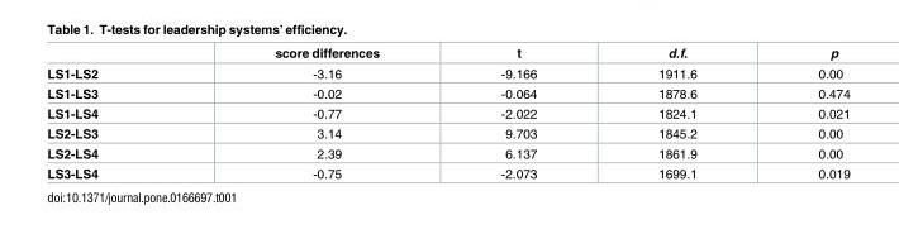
<table><thead><tr><td></td><td>score differences</td><td>t</td><td>d.f.</td><td>p</td></tr></thead><tbody><tr><td>LS1-LS2</td><td>-3.16</td><td>-9.166</td><td>1911.6</td><td>0.00</td></tr><tr><td>LS1-LS3</td><td>-0.02</td><td>-0.064</td><td>1878.6</td><td>0.474</td></tr><tr><td>LS1-LS4</td><td>-0.77</td><td>-2.022</td><td>1824.1</td><td>0.021</td></tr><tr><td>LS2-LS3</td><td>3.14</td><td>9.703</td><td>1845.2</td><td>0.00</td></tr><tr><td>LS2-LS4</td><td>2.39</td><td>6.137</td><td>1861.9</td><td>0.00</td></tr><tr><td>LS3-LS4</td><td>-0.75</td><td>-2.073</td><td>1699.1</td><td>0.019</td></tr></tbody></table>